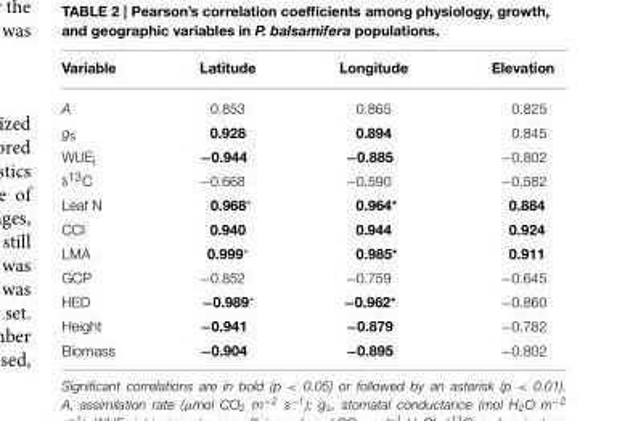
<table><thead><tr><td>Variable</td><td>Latitude</td><td>Longitude</td><td>Elevation</td></tr></thead><tbody><tr><td>A</td><td>0.853</td><td>0.865</td><td>0.825</td></tr><tr><td>g<sub>s</sub></td><td>0.928</td><td>0.894</td><td>0.845</td></tr><tr><td>WUE<sub>i</sub></td><td>−0.944</td><td>−0.885</td><td>−0.802</td></tr><tr><td>δ<sup>13</sup>C</td><td>−0.668</td><td>−0.590</td><td>−0.582</td></tr><tr><td>Leaf N</td><td>0.968*</td><td>0.964*</td><td>0.884</td></tr><tr><td>CCI</td><td>0.940</td><td>0.944</td><td>0.924</td></tr><tr><td>LMA</td><td>0.999*</td><td>0.985*</td><td>0.911</td></tr><tr><td>GCP</td><td>−0.852</td><td>−0.759</td><td>−0.645</td></tr><tr><td>HED</td><td>−0.989*</td><td>−0.962*</td><td>−0.860</td></tr><tr><td>Height</td><td>−0.941</td><td>−0.879</td><td>−0.782</td></tr><tr><td>Biomass</td><td>−0.904</td><td>−0.895</td><td>−0.802</td></tr></tbody></table>